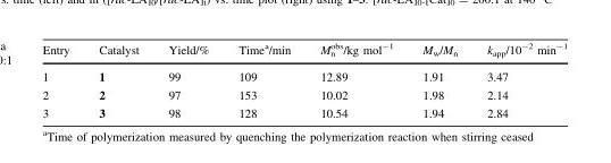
<table><thead><tr><td>Entry</td><td>Catalyst</td><td>Yield/%</td><td>Time<sup>a</sup>/min</td><td>M<sub>n</sub> <sup>obs</sup>/kg mol<sup>-1</sup></td><td>M<sub>w</sub>/M<sub>n</sub></td><td>k<sub>app</sub>/10<sup>-2</sup> min<sup>-1</sup></td></tr></thead><tbody><tr><td>1</td><td>1</td><td>99</td><td>109</td><td>12.89</td><td>1.91</td><td>3.47</td></tr><tr><td>2</td><td>2</td><td>97</td><td>153</td><td>10.02</td><td>1.98</td><td>2.14</td></tr><tr><td>3</td><td>3</td><td>98</td><td>128</td><td>10.54</td><td>1.94</td><td>2.84</td></tr></tbody></table>